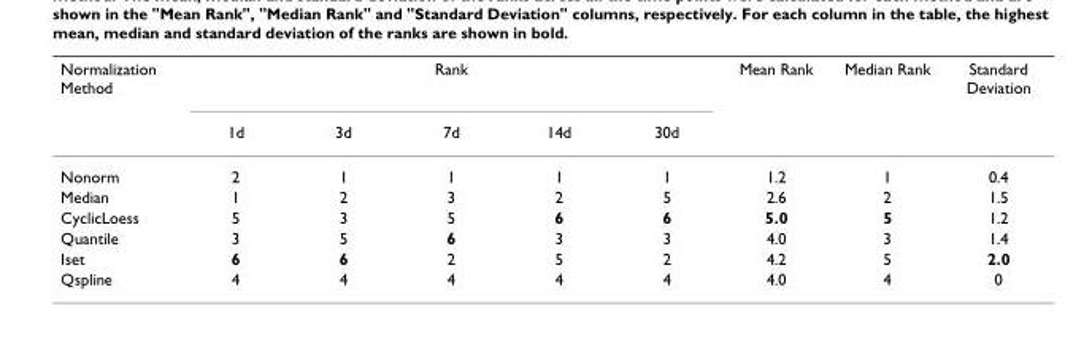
<table><thead><tr><td rowspan="2">Normalization Method</td><td colspan="5">Rank</td><td rowspan="2">Mean Rank</td><td rowspan="2">Median Rank</td><td rowspan="2">Standard Deviation</td></tr><tr><td>1d</td><td>3d</td><td>7d</td><td>14d</td><td>30d</td></tr></thead><tbody><tr><td>Nonorm</td><td>2</td><td>1</td><td>1</td><td>1</td><td>1</td><td>1.2</td><td>1</td><td>0.4</td></tr><tr><td>Median</td><td>1</td><td>2</td><td>3</td><td>2</td><td>5</td><td>2.6</td><td>2</td><td>1.5</td></tr><tr><td>CyclicLoess</td><td>5</td><td>3</td><td>5</td><td>6</td><td>6</td><td>5.0</td><td>5</td><td>1.2</td></tr><tr><td>Quantile</td><td>3</td><td>5</td><td>6</td><td>3</td><td>3</td><td>4.0</td><td>3</td><td>1.4</td></tr><tr><td>Iset</td><td>6</td><td>6</td><td>2</td><td>5</td><td>2</td><td>4.2</td><td>5</td><td>2.0</td></tr><tr><td>Qspline</td><td>4</td><td>4</td><td>4</td><td>4</td><td>4</td><td>4.0</td><td>4</td><td>0</td></tr></tbody></table>